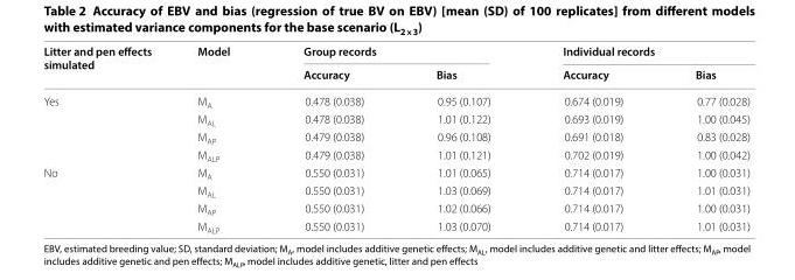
<table><thead><tr><td rowspan="2">Litter and pen effects simulated</td><td rowspan="2">Model</td><td colspan="2">Group records</td><td colspan="2">Individual records</td></tr><tr><td>Accuracy</td><td>Bias</td><td>Accuracy</td><td>Bias</td></tr></thead><tbody><tr><td rowspan="4">Yes</td><td>M<sub>A</sub></td><td>0.478 (0.038)</td><td>0.95 (0.107)</td><td>0.674 (0.019)</td><td>0.77 (0.028)</td></tr><tr><td>M<sub>AL</sub></td><td>0.478 (0.038)</td><td>1.01 (0.122)</td><td>0.693 (0.019)</td><td>1.00 (0.045)</td></tr><tr><td>M<sub>AP</sub></td><td>0.479 (0.038)</td><td>0.96 (0.108)</td><td>0.691 (0.018)</td><td>0.83 (0.028)</td></tr><tr><td>M<sub>ALP</sub></td><td>0.479 (0.038)</td><td>1.01 (0.121)</td><td>0.702 (0.019)</td><td>1.00 (0.042)</td></tr><tr><td rowspan="4">No</td><td>M<sub>A</sub></td><td>0.550 (0.031)</td><td>1.01 (0.065)</td><td>0.714 (0.017)</td><td>1.00 (0.031)</td></tr><tr><td>M<sub>AL</sub></td><td>0.550 (0.031)</td><td>1.03 (0.069)</td><td>0.714 (0.017)</td><td>1.01 (0.031)</td></tr><tr><td>M<sub>AP</sub></td><td>0.550 (0.031)</td><td>1.02 (0.066)</td><td>0.714 (0.017)</td><td>1.00 (0.031)</td></tr><tr><td>M<sub>ALP</sub></td><td>0.550 (0.031)</td><td>1.03 (0.070)</td><td>0.714 (0.017)</td><td>1.01 (0.031)</td></tr></tbody></table>